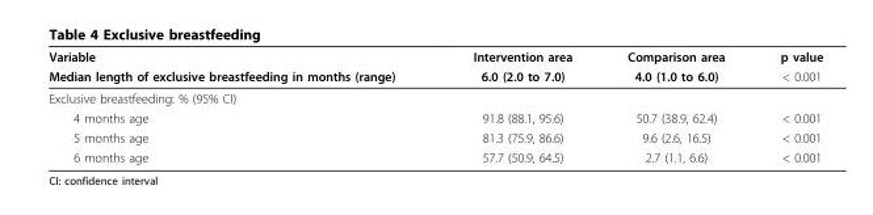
<table><thead><tr><td rowspan="2">Variable Median length of exclusive breastfeeding in months (range)</td><td rowspan="2">Intervention area 6.0 (2.0 to 7.0)</td><td rowspan="2">Comparison area 4.0 (1.0 to 6.0)</td><td rowspan="2">p value &lt; 0.001</td></tr><tr></tr></thead><tbody><tr><td colspan="4">Exclusive breastfeeding: % (95% CI)</td></tr><tr><td>4 months age</td><td>91.8 (88.1, 95.6)</td><td>50.7 (38.9, 62.4)</td><td>&lt; 0.001</td></tr><tr><td>5 months age</td><td>81.3 (75.9, 86.6)</td><td>9.6 (2.6, 16.5)</td><td>&lt; 0.001</td></tr><tr><td>6 months age</td><td>57.7 (50.9, 64.5)</td><td>2.7 (1.1, 6.6)</td><td>&lt; 0.001</td></tr></tbody></table>